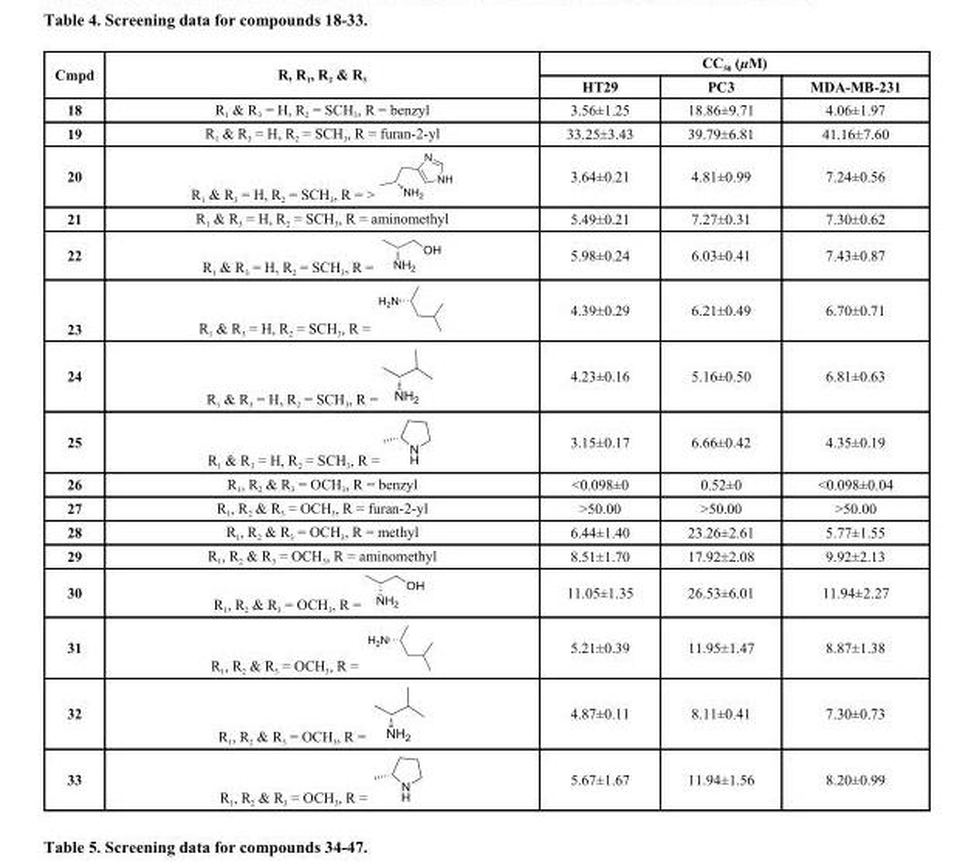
<table><thead><tr><td rowspan="2">Cmpd</td><td rowspan="2">R, R<sub>1</sub>, R<sub>2</sub> &amp; R<sub>3</sub></td><td colspan="3">CC<sub>50</sub> (µM)</td></tr><tr><td>HT29</td><td>PC3</td><td>MDA-MB-231</td></tr></thead><tbody><tr><td>18</td><td>R<sub>1</sub> &amp; R<sub>3</sub> = H, R<sub>2</sub> = SCH<sub>3</sub>, R = benzyl</td><td>3.56±1.25</td><td>18.86±9.71</td><td>4.06±1.97</td></tr><tr><td>19</td><td>R<sub>1</sub> &amp; R<sub>3</sub> = H, R<sub>2</sub> = SCH<sub>3</sub>, R = furan-2-yl</td><td>33.25±3.43</td><td>39.79±6.81</td><td>41.16±7.60</td></tr><tr><td>20</td><td>R1 &amp; R3 = H, R2 = SCH3, R = &gt;</td><td>3.64±0.21</td><td>4.81±0.99</td><td>7.24±0.56</td></tr><tr><td>21</td><td>R<sub>1</sub> &amp; R<sub>3</sub> = H, R<sub>2</sub> = SCH<sub>3</sub>, R = aminomethyl</td><td>5.49±0.21</td><td>7.27±0.31</td><td>7.30±0.62</td></tr><tr><td>22</td><td>R1 &amp; R3 = H, R2 = SCH3, R =</td><td>5.98±0.24</td><td>6.03±0.41</td><td>7.43±0.87</td></tr><tr><td>23</td><td>R1 &amp; R3 = H, R2 = SCH3, R =</td><td>4.39±0.29</td><td>6.21±0.49</td><td>6.70±0.71</td></tr><tr><td>24</td><td>R1 &amp; R3 = H, R2 = SCH3, R =</td><td>4.23±0.16</td><td>5.16±0.50</td><td>6.81±0.63</td></tr><tr><td>25</td><td>R1 &amp; R3 = H, R2 = SCH3, R =</td><td>3.15±0.17</td><td>6.66±0.42</td><td>4.35±0.19</td></tr><tr><td>26</td><td>R<sub>1</sub>, R<sub>2</sub> &amp; R<sub>3</sub> = OCH<sub>3</sub>, R = benzyl</td><td>&lt;0.098±0</td><td>0.52±0</td><td>&lt;0.098±0.04</td></tr><tr><td>27</td><td>R<sub>1</sub>, R<sub>2</sub> &amp; R<sub>3</sub> = OCH<sub>3</sub>, R = furan-2-yl</td><td>&gt;50.00</td><td>&gt;50.00</td><td>&gt;50.00</td></tr><tr><td>28</td><td>R<sub>1</sub>, R<sub>2</sub> &amp; R<sub>3</sub> = OCH<sub>3</sub>, R = methyl</td><td>6.44±1.40</td><td>23.26±2.61</td><td>5.77±1.55</td></tr><tr><td>29</td><td>R<sub>1</sub>, R<sub>2</sub> &amp; R<sub>3</sub> = OCH<sub>3</sub>, R = aminomethyl</td><td>8.51±1.70</td><td>17.92±2.08</td><td>9.92±2.13</td></tr><tr><td>30</td><td>R1, R2 &amp; R3 = OCH3, R =</td><td>11.05±1.35</td><td>26.53±6.01</td><td>11.94±2.27</td></tr><tr><td>31</td><td>R1, R2 &amp; R3 = OCH3, R =</td><td>5.21±0.39</td><td>11.95±1.47</td><td>8.87±1.38</td></tr><tr><td>32</td><td>R1, R2 &amp; R3 = OCH3, R =</td><td>4.87±0.11</td><td>8.11±0.41</td><td>7.30±0.73</td></tr><tr><td>33</td><td>R1, R2 &amp; R3 = OCH3, R =</td><td>5.67±1.67</td><td>11.94±1.56</td><td>8.20±0.99</td></tr></tbody></table>